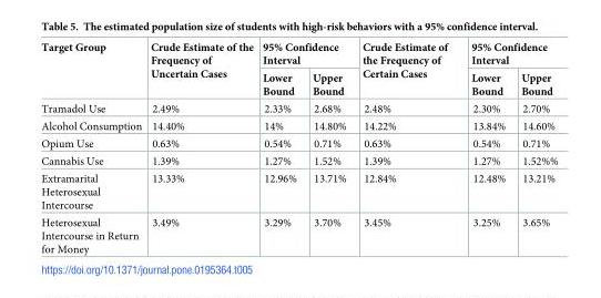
<table><thead><tr><td rowspan="2">Target Group</td><td rowspan="2">Crude Estimate of the Frequency of Uncertain Cases</td><td colspan="2">95% Confidence Interval</td><td rowspan="2">Crude Estimate of the Frequency of Certain Cases</td><td colspan="2">95% Confidence Interval</td></tr><tr><td>Lower Bound</td><td>Upper Bound</td><td>Lower Bound</td><td>Upper Bound</td></tr></thead><tbody><tr><td>Tramadol Use</td><td>2.49%</td><td>2.33%</td><td>2.68%</td><td>2.48%</td><td>2.30%</td><td>2.70%</td></tr><tr><td>Alcohol Consumption</td><td>14.40%</td><td>14%</td><td>14.80%</td><td>14.22%</td><td>13.84%</td><td>14.60%</td></tr><tr><td>Opium Use</td><td>0.63%</td><td>0.54%</td><td>0.71%</td><td>0.63%</td><td>0.54%</td><td>0.71%</td></tr><tr><td>Cannabis Use</td><td>1.39%</td><td>1.27%</td><td>1.52%</td><td>1.39%</td><td>1.27%</td><td>1.52%%</td></tr><tr><td>Extramarital Heterosexual Intercourse</td><td>13.33%</td><td>12.96%</td><td>13.71%</td><td>12.84%</td><td>12.48%</td><td>13.21%</td></tr><tr><td>Heterosexual Intercourse in Return for Money</td><td>3.49%</td><td>3.29%</td><td>3.70%</td><td>3.45%</td><td>3.25%</td><td>3.65%</td></tr></tbody></table>